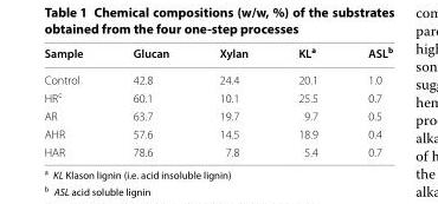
<table><thead><tr><td>Sample</td><td>Glucan</td><td>Xylan</td><td>KL<sup>a</sup></td><td>ASL<sup>b</sup></td></tr></thead><tbody><tr><td>Control</td><td>42.8</td><td>24.4</td><td>20.1</td><td>1.0</td></tr><tr><td>HR<sup>c</sup></td><td>60.1</td><td>10.1</td><td>25.5</td><td>0.7</td></tr><tr><td>AR</td><td>63.7</td><td>19.7</td><td>9.7</td><td>0.5</td></tr><tr><td>AHR</td><td>57.6</td><td>14.5</td><td>18.9</td><td>0.4</td></tr><tr><td>HAR</td><td>78.6</td><td>7.8</td><td>5.4</td><td>0.7</td></tr></tbody></table>